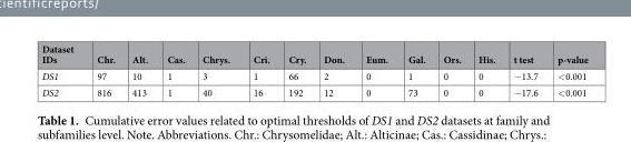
<table><thead><tr><td>Dataset IDs</td><td>Chr.</td><td>Alt.</td><td>Cas.</td><td>Chrys.</td><td>Cri.</td><td>Cry.</td><td>Don.</td><td>Eum.</td><td>Gal.</td><td>Ors.</td><td>His.</td><td>t test</td><td>p-value</td></tr></thead><tbody><tr><td>DS1</td><td>97</td><td>10</td><td>1</td><td>3</td><td>1</td><td>66</td><td>2</td><td>0</td><td>1</td><td>0</td><td>0</td><td>−13.7</td><td>&lt;0.001</td></tr><tr><td>DS2</td><td>816</td><td>413</td><td>1</td><td>40</td><td>16</td><td>192</td><td>12</td><td>0</td><td>73</td><td>0</td><td>0</td><td>−17.6</td><td>&lt;0.001</td></tr></tbody></table>